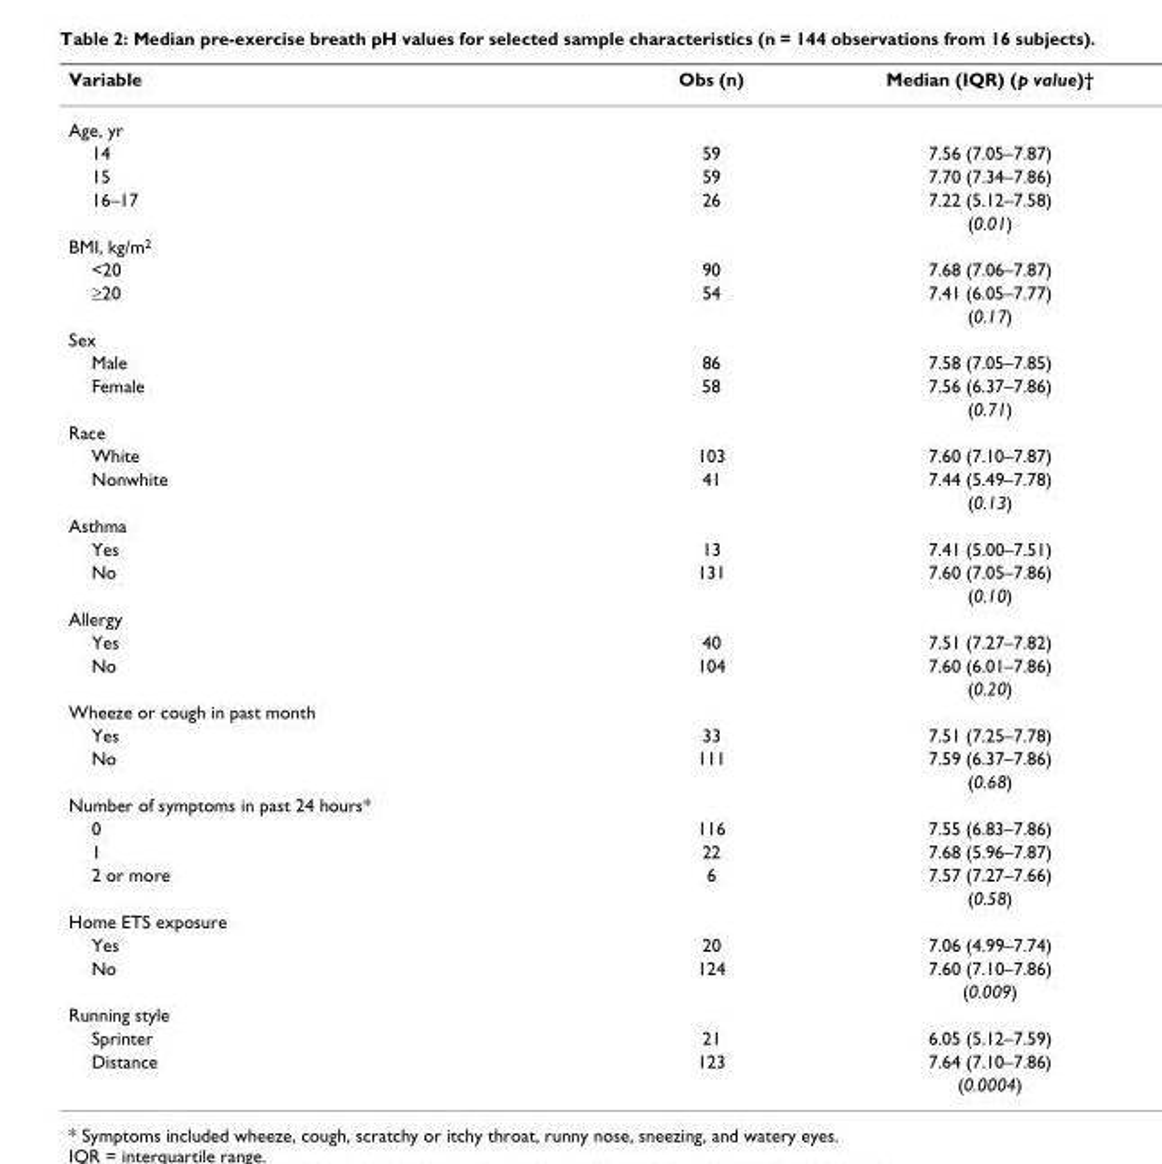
<table><thead><tr><td>Variable</td><td>Obs (n)</td><td>Median (IQR) (p value)†</td></tr></thead><tbody><tr><td colspan="3">Age, yr</td></tr><tr><td>14</td><td>59</td><td>7.56 (7.05–7.87)</td></tr><tr><td>15</td><td>59</td><td>7.70 (7.34–7.86)</td></tr><tr><td rowspan="2">16–17</td><td>26</td><td>7.22 (5.12–7.58)</td></tr><tr><td></td><td>(0.01)</td></tr><tr><td colspan="3">BMI, kg/m<sup>2</sup></td></tr><tr><td>&lt;20</td><td>90</td><td>7.68 (7.06–7.87)</td></tr><tr><td rowspan="2">≥20</td><td>54</td><td>7.41 (6.05–7.77)</td></tr><tr><td></td><td>(0.17)</td></tr><tr><td colspan="3">Sex</td></tr><tr><td>Male</td><td>86</td><td>7.58 (7.05–7.85)</td></tr><tr><td rowspan="2">Female</td><td>58</td><td>7.56 (6.37–7.86)</td></tr><tr><td></td><td>(0.71)</td></tr><tr><td colspan="3">Race</td></tr><tr><td>White</td><td>103</td><td>7.60 (7.10–7.87)</td></tr><tr><td rowspan="2">Nonwhite</td><td>41</td><td>7.44 (5.49–7.78)</td></tr><tr><td></td><td>(0.13)</td></tr><tr><td colspan="3">Asthma</td></tr><tr><td>Yes</td><td>13</td><td>7.41 (5.00–7.51)</td></tr><tr><td rowspan="2">No</td><td>131</td><td>7.60 (7.05–7.86)</td></tr><tr><td></td><td>(0.10)</td></tr><tr><td colspan="3">Allergy</td></tr><tr><td>Yes</td><td>40</td><td>7.51 (7.27–7.82)</td></tr><tr><td rowspan="2">No</td><td>104</td><td>7.60 (6.01–7.86)</td></tr><tr><td></td><td>(0.20)</td></tr><tr><td colspan="3">Wheeze or cough in past month</td></tr><tr><td>Yes</td><td>33</td><td>7.51 (7.25–7.78)</td></tr><tr><td rowspan="2">No</td><td>111</td><td>7.59 (6.37–7.86)</td></tr><tr><td></td><td>(0.68)</td></tr><tr><td colspan="3">Number of symptoms in past 24 hours*</td></tr><tr><td>0</td><td>116</td><td>7.55 (6.83–7.86)</td></tr><tr><td>1</td><td>22</td><td>7.68 (5.96–7.87)</td></tr><tr><td rowspan="2">2 or more</td><td>6</td><td>7.57 (7.27–7.66)</td></tr><tr><td></td><td>(0.58)</td></tr><tr><td colspan="3">Home ETS exposure</td></tr><tr><td>Yes</td><td>20</td><td>7.06 (4.99–7.74)</td></tr><tr><td rowspan="2">No</td><td>124</td><td>7.60 (7.10–7.86)</td></tr><tr><td></td><td>(0.009)</td></tr><tr><td colspan="3">Running style</td></tr><tr><td>Sprinter</td><td>21</td><td>6.05 (5.12–7.59)</td></tr><tr><td rowspan="2">Distance</td><td>123</td><td>7.64 (7.10–7.86)</td></tr><tr><td></td><td>(0.0004)</td></tr></tbody></table>